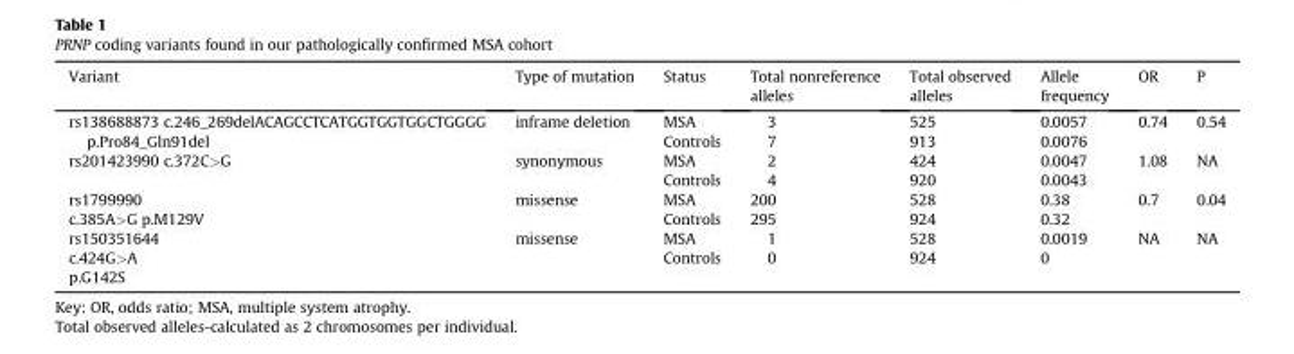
<table><thead><tr><td>Variant</td><td>Type of mutation</td><td>Status</td><td>Total nonreference alleles</td><td>Total observed alleles</td><td>Allele frequency</td><td>OR</td><td>P</td></tr></thead><tbody><tr><td rowspan="2">rs138688873 c.246_269delACAGCCTCATGGTGGTGGCTGGGG p.Pro84_Gln91del</td><td rowspan="2">inframe deletion</td><td>MSA</td><td>3</td><td>525</td><td>0.0057</td><td rowspan="2">0.74</td><td rowspan="2">0.54</td></tr><tr><td>Controls</td><td>7</td><td>913</td><td>0.0076</td></tr><tr><td rowspan="2">rs201423990 c.372C&gt;G</td><td rowspan="2">synonymous</td><td>MSA</td><td>2</td><td>424</td><td>0.0047</td><td rowspan="2">1.08</td><td rowspan="2">NA</td></tr><tr><td>Controls</td><td>4</td><td>920</td><td>0.0043</td></tr><tr><td rowspan="2">rs1799990 c.385A&gt;G p.M129V</td><td rowspan="2">missense</td><td>MSA</td><td>200</td><td>528</td><td>0.38</td><td rowspan="2">0.7</td><td rowspan="2">0.04</td></tr><tr><td>Controls</td><td>295</td><td>924</td><td>0.32</td></tr><tr><td rowspan="2">rs150351644 c.424G&gt;A p.G142S</td><td rowspan="2">missense</td><td>MSA</td><td>1</td><td>528</td><td>0.0019</td><td rowspan="2">NA</td><td rowspan="2">NA</td></tr><tr><td>Controls</td><td>0</td><td>924</td><td>0</td></tr></tbody></table>